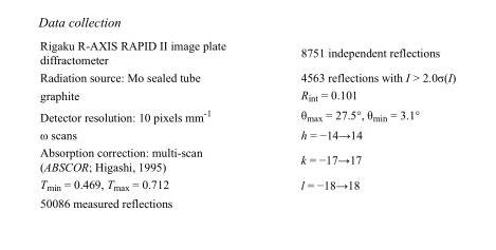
<table><tbody><tr><td>Rigaku R-AXIS RAPID II image plate diffractometer</td><td>8751 independent reflections</td></tr><tr><td>Radiation source: Mo sealed tube</td><td>4563 reflections with I &gt; 2.0σ(I)</td></tr><tr><td>graphite</td><td>R<sub>int</sub> = 0.101</td></tr><tr><td>Detector resolution: 10 pixels mm<sup>-1</sup></td><td>θ<sub>max</sub> = 27.5°, θ<sub>min</sub> = 3.1°</td></tr><tr><td>ω scans</td><td>h = −14→14</td></tr><tr><td>Absorption correction: multi-scan (ABSCOR; Higashi, 1995)</td><td>k = −17→17</td></tr><tr><td>T<sub>min</sub> = 0.469, T<sub>max</sub> = 0.712</td><td>l = −18→18</td></tr><tr><td>50086 measured reflections</td><td></td></tr></tbody></table>